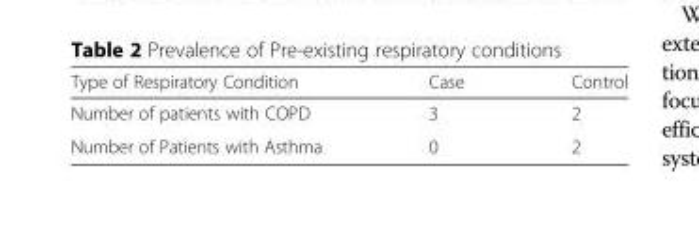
<table><thead><tr><td>Type of Respiratory Condition</td><td>Case</td><td>Control</td></tr></thead><tbody><tr><td>Number of patients with COPD</td><td>3</td><td>2</td></tr><tr><td>Number of Patients with Asthma</td><td>0</td><td>2</td></tr></tbody></table>